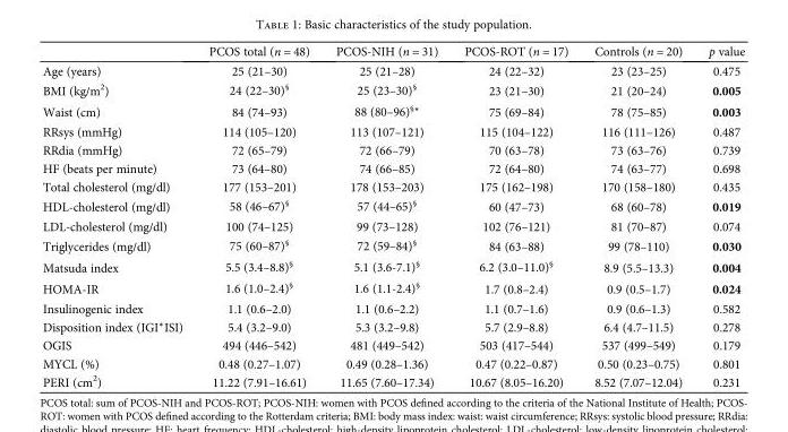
<table><thead><tr><td></td><td>PCOS total (n = 48)</td><td>PCOS-NIH (n = 31)</td><td>PCOS-ROT (n = 17)</td><td>Controls (n = 20)</td><td>p value</td></tr></thead><tbody><tr><td>Age (years)</td><td>25 (21–30)</td><td>25 (21–28)</td><td>24 (22–32)</td><td>23 (23–25)</td><td>0.475</td></tr><tr><td>BMI (kg/m<sup>2</sup>)</td><td>24 (22–30)<sup>§</sup></td><td>25 (23–30)<sup>§</sup></td><td>23 (21–30)</td><td>21 (20–24)</td><td>0.005</td></tr><tr><td>Waist (cm)</td><td>84 (74–93)</td><td>88 (80–96)<sup>§∗</sup></td><td>75 (69–84)</td><td>78 (75–85)</td><td>0.003</td></tr><tr><td>RRsys (mmHg)</td><td>114 (105–120)</td><td>113 (107–121)</td><td>115 (104–122)</td><td>116 (111–126)</td><td>0.487</td></tr><tr><td>RRdia (mmHg)</td><td>72 (65–79)</td><td>72 (66–79)</td><td>70 (63–78)</td><td>73 (63–76)</td><td>0.739</td></tr><tr><td>HF (beats per minute)</td><td>73 (64–80)</td><td>74 (66–85)</td><td>72 (64–80)</td><td>74 (63–77)</td><td>0.698</td></tr><tr><td>Total cholesterol (mg/dl)</td><td>177 (153–201)</td><td>178 (153–203)</td><td>175 (162–198)</td><td>170 (158–180)</td><td>0.435</td></tr><tr><td>HDL-cholesterol (mg/dl)</td><td>58 (46–67)<sup>§</sup></td><td>57 (44–65)<sup>§</sup></td><td>60 (47–73)</td><td>68 (60–78)</td><td>0.019</td></tr><tr><td>LDL-cholesterol (mg/dl)</td><td>100 (74–125)</td><td>99 (73–128)</td><td>102 (76–121)</td><td>81 (70–87)</td><td>0.074</td></tr><tr><td>Triglycerides (mg/dl)</td><td>75 (60–87)<sup>§</sup></td><td>72 (59–84)<sup>§</sup></td><td>84 (63–88)</td><td>99 (78–110)</td><td>0.030</td></tr><tr><td>Matsuda index</td><td>5.5 (3.4–8.8)<sup>§</sup></td><td>5.1 (3.6-7.1)<sup>§</sup></td><td>6.2 (3.0–11.0)<sup>§</sup></td><td>8.9 (5.5–13.3)</td><td>0.004</td></tr><tr><td>HOMA-IR</td><td>1.6 (1.0–2.4)<sup>§</sup></td><td>1.6 (1.1-2.4)<sup>§</sup></td><td>1.7 (0.8–2.4)</td><td>0.9 (0.5–1.7)</td><td>0.024</td></tr><tr><td>Insulinogenic index</td><td>1.1 (0.6–2.0)</td><td>1.1 (0.6–2.2)</td><td>1.1 (0.7–1.6)</td><td>0.9 (0.6–1.3)</td><td>0.582</td></tr><tr><td>Disposition index (IGI∗ISI)</td><td>5.4 (3.2–9.0)</td><td>5.3 (3.2–9.8)</td><td>5.7 (2.9–8.8)</td><td>6.4 (4.7–11.5)</td><td>0.278</td></tr><tr><td>OGIS</td><td>494 (446–542)</td><td>481 (449–542)</td><td>503 (417–544)</td><td>537 (499–549)</td><td>0.179</td></tr><tr><td>MYCL (%)</td><td>0.48 (0.27–1.07)</td><td>0.49 (0.28–1.36)</td><td>0.47 (0.22–0.87)</td><td>0.50 (0.23–0.75)</td><td>0.801</td></tr><tr><td>PERI (cm<sup>2</sup>)</td><td>11.22 (7.91–16.61)</td><td>11.65 (7.60–17.34)</td><td>10.67 (8.05–16.20)</td><td>8.52 (7.07–12.04)</td><td>0.231</td></tr></tbody></table>